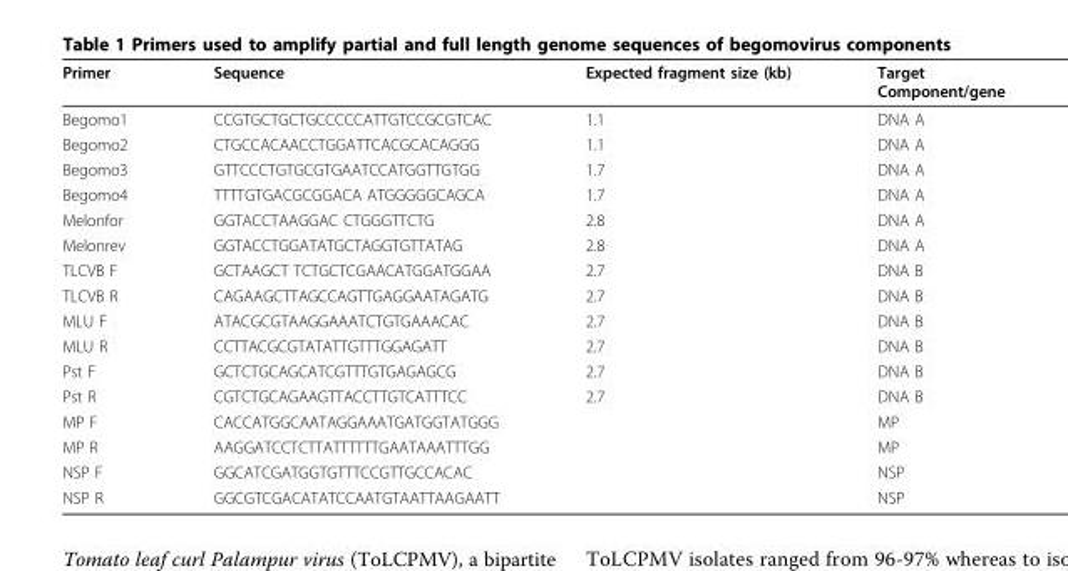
<table><thead><tr><td>Primer</td><td>Sequence</td><td>Expected fragment size (kb)</td><td>Target Component/gene</td></tr></thead><tbody><tr><td>Begomo1</td><td>CCGTGCTGCTGCCCCCATTGTCCGCGTCAC</td><td>1.1</td><td>DNA A</td></tr><tr><td>Begomo2</td><td>CTGCCACAACCTGGATTCACGCACAGGG</td><td>1.1</td><td>DNA A</td></tr><tr><td>Begomo3</td><td>GTTCCCTGTGCGTGAATCCATGGTTGTGG</td><td>1.7</td><td>DNA A</td></tr><tr><td>Begomo4</td><td>TTTTGTGACGCGGACA ATGGGGGCAGCA</td><td>1.7</td><td>DNA A</td></tr><tr><td>Melonfor</td><td>GGTACCTAAGGAC CTGGGTTCTG</td><td>2.8</td><td>DNA A</td></tr><tr><td>Melonrev</td><td>GGTACCTGGATATGCTAGGTGTTATAG</td><td>2.8</td><td>DNA A</td></tr><tr><td>TLCVB F</td><td>GCTAAGCT TCTGCTCGAACATGGATGGAA</td><td>2.7</td><td>DNA B</td></tr><tr><td>TLCVB R</td><td>CAGAAGCTTAGCCAGTTGAGGAATAGATG</td><td>2.7</td><td>DNA B</td></tr><tr><td>MLU F</td><td>ATACGCGTAAGGAAATCTGTGAAACAC</td><td>2.7</td><td>DNA B</td></tr><tr><td>MLU R</td><td>CCTTACGCGTATATTGTTTGGAGATT</td><td>2.7</td><td>DNA B</td></tr><tr><td>Pst F</td><td>GCTCTGCAGCATCGTTTGTGAGAGCG</td><td>2.7</td><td>DNA B</td></tr><tr><td>Pst R</td><td>CGTCTGCAGAAGTTACCTTGTCATTTCC</td><td>2.7</td><td>DNA B</td></tr><tr><td>MP F</td><td>CACCATGGCAATAGGAAATGATGGTATGGG</td><td></td><td>MP</td></tr><tr><td>MP R</td><td>AAGGATCCTCTTATTTTTTGAATAAATTTGG</td><td></td><td>MP</td></tr><tr><td>NSP F</td><td>GGCATCGATGGTGTTTCCGTTGCCACAC</td><td></td><td>NSP</td></tr><tr><td>NSP R</td><td>GGCGTCGACATATCCAATGTAATTAAGAATT</td><td></td><td>NSP</td></tr></tbody></table>